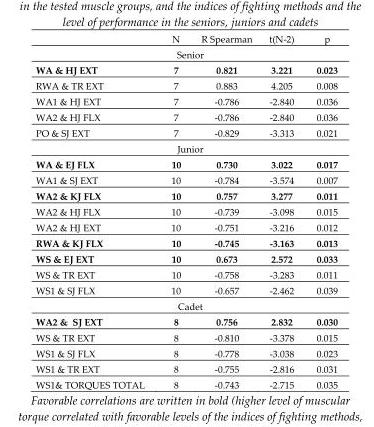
<table><thead><tr><td></td><td>N</td><td>R Spearman</td><td>t(N-2)</td><td>p</td></tr></thead><tbody><tr><td colspan="5">Senior</td></tr><tr><td>WA &amp; HJ EXT</td><td>7</td><td>0.821</td><td>3.221</td><td>0.023</td></tr><tr><td>RWA &amp; TR EXT</td><td>7</td><td>0.883</td><td>4.205</td><td>0.008</td></tr><tr><td>WA1 &amp; HJ EXT</td><td>7</td><td>-0.786</td><td>-2.840</td><td>0.036</td></tr><tr><td>WA2 &amp; HJ FLX</td><td>7</td><td>-0.786</td><td>-2.840</td><td>0.036</td></tr><tr><td>PO &amp; SJ EXT</td><td>7</td><td>-0.829</td><td>-3.313</td><td>0.021</td></tr><tr><td colspan="5">Junior</td></tr><tr><td>WA &amp; EJ FLX</td><td>10</td><td>0.730</td><td>3.022</td><td>0.017</td></tr><tr><td>WA1 &amp; SJ EXT</td><td>10</td><td>-0.784</td><td>-3.574</td><td>0.007</td></tr><tr><td>WA2 &amp; KJ FLX</td><td>10</td><td>0.757</td><td>3.277</td><td>0.011</td></tr><tr><td>WA2 &amp; HJ FLX</td><td>10</td><td>-0.739</td><td>-3.098</td><td>0.015</td></tr><tr><td>WA2 &amp; HJ EXT</td><td>10</td><td>-0.751</td><td>-3.216</td><td>0.012</td></tr><tr><td>RWA &amp; KJ FLX</td><td>10</td><td>-0.745</td><td>-3.163</td><td>0.013</td></tr><tr><td>WS &amp; EJ EXT</td><td>10</td><td>0.673</td><td>2.572</td><td>0.033</td></tr><tr><td>WS &amp; TR EXT</td><td>10</td><td>-0.758</td><td>-3.283</td><td>0.011</td></tr><tr><td>WS1 &amp; SJ FLX</td><td>10</td><td>-0.657</td><td>-2.462</td><td>0.039</td></tr><tr><td colspan="5">Cadet</td></tr><tr><td>WA2 &amp; SJ EXT</td><td>8</td><td>0.756</td><td>2.832</td><td>0.030</td></tr><tr><td>WS &amp; TR EXT</td><td>8</td><td>-0.810</td><td>-3.378</td><td>0.015</td></tr><tr><td>WS1 &amp; SJ FLX</td><td>8</td><td>-0.778</td><td>-3.038</td><td>0.023</td></tr><tr><td>WS1 &amp; TR EXT</td><td>8</td><td>-0.755</td><td>-2.816</td><td>0.031</td></tr><tr><td>WS1&amp; TORQUES TOTAL</td><td>8</td><td>-0.743</td><td>-2.715</td><td>0.035</td></tr></tbody></table>